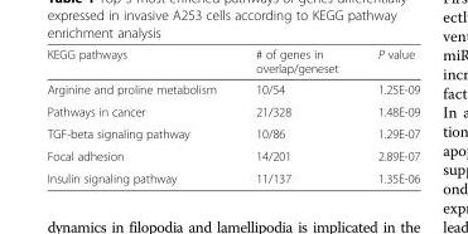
<table><thead><tr><td>KEGG pathways</td><td># of genes in overlap/geneset</td><td>P value</td></tr></thead><tbody><tr><td>Arginine and proline metabolism</td><td>10/54</td><td>1.25E-09</td></tr><tr><td>Pathways in cancer</td><td>21/328</td><td>1.48E-09</td></tr><tr><td>TGF-beta signaling pathway</td><td>10/86</td><td>1.29E-07</td></tr><tr><td>Focal adhesion</td><td>14/201</td><td>2.89E-07</td></tr><tr><td>Insulin signaling pathway</td><td>11/137</td><td>1.35E-06</td></tr></tbody></table>